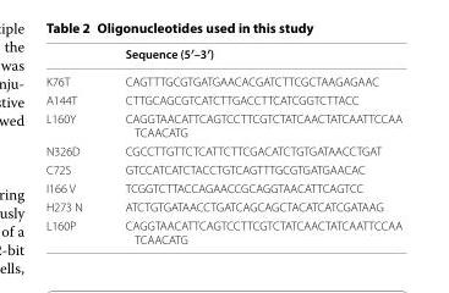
<table><thead><tr><td></td><td>Sequence (5′–3′)</td></tr></thead><tbody><tr><td>K76T</td><td>CAGTTTGCGTGATGAACACGATCTTCGCTAAGAGAAC</td></tr><tr><td>A144T</td><td>CTTGCAGCGTCATCTTGACCTTCATCGGTCTTACC</td></tr><tr><td>L160Y</td><td>CAGGTAACATTCAGTCCTTCGTCTATCAACTATCAATTCCAA TCAACATG</td></tr><tr><td>N326D</td><td>CGCCTTGTTCTCATTCTTCGACATCTGTGATAACCTGAT</td></tr><tr><td>C72S</td><td>GTCCATCATCTACCTGTCAGTTTGCGTGATGAACAC</td></tr><tr><td>I166 V</td><td>TCGGTCTTACCAGAACCGCAGGTAACATTCAGTCC</td></tr><tr><td>H273 N</td><td>ATCTGTGATAACCTGATCAGCAGCTACATCATCGATAAG</td></tr><tr><td>L160P</td><td>CAGGTAACATTCAGTCCTTCGTCTATCAACTATCAATTCCAA TCAACATG</td></tr></tbody></table>